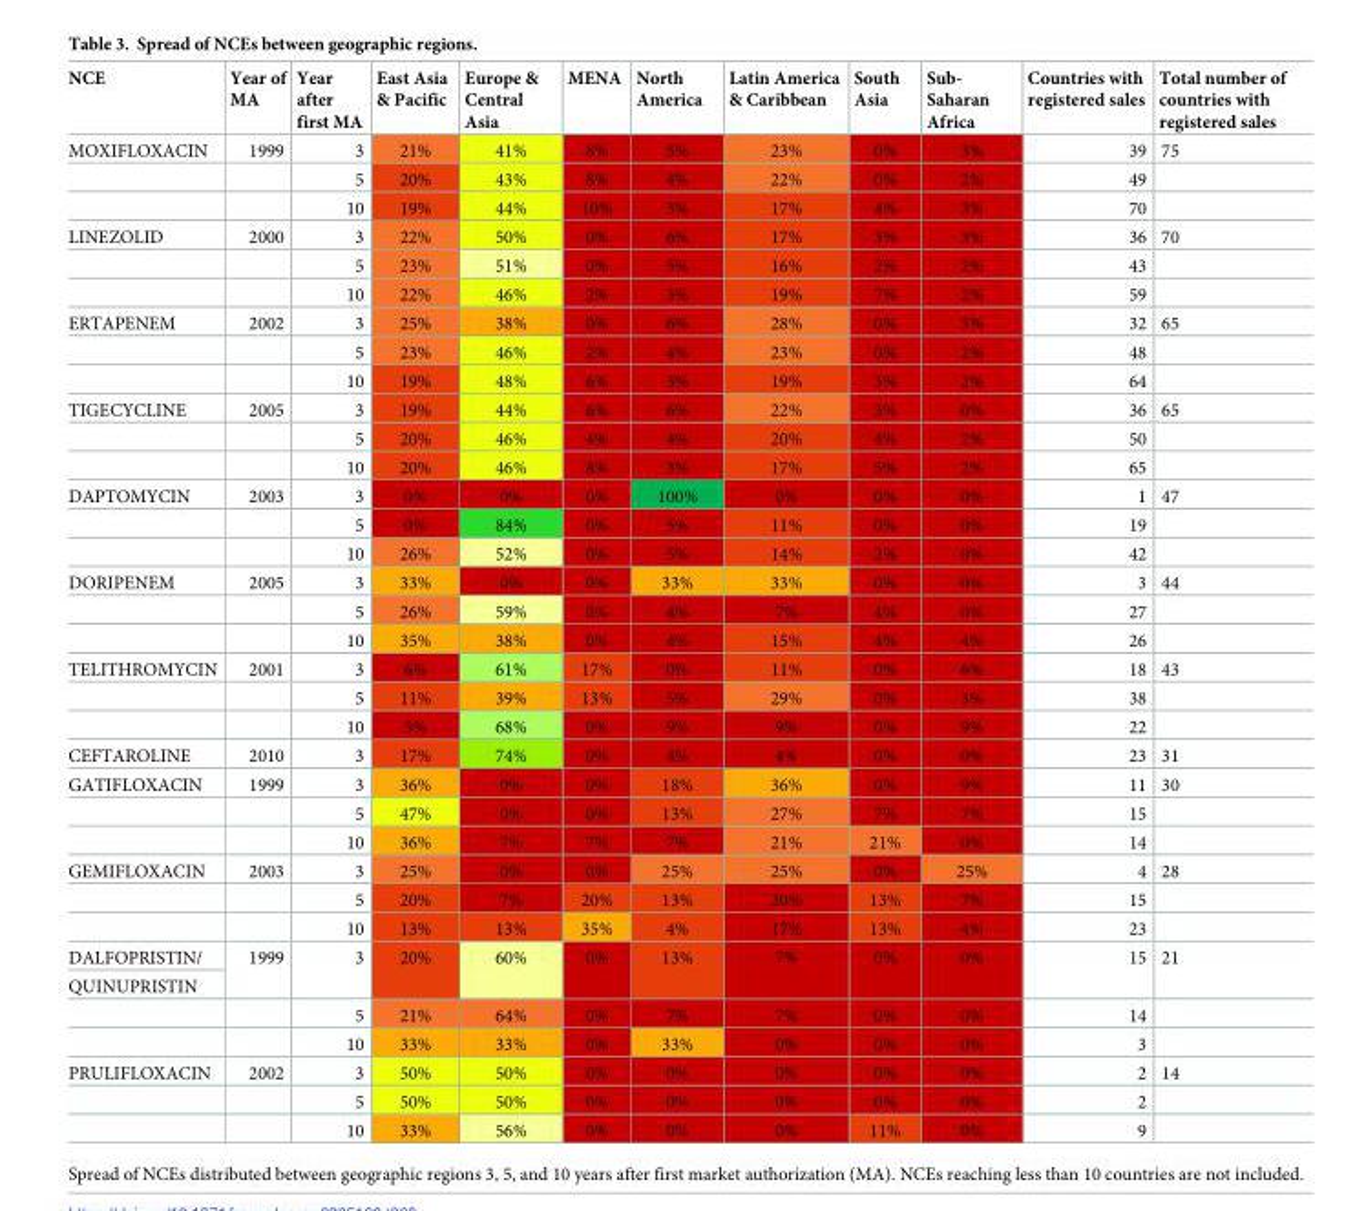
<table><thead><tr><td>NCE</td><td>Year of MA</td><td>Year after first MA</td><td>East Asia &amp; Pacific</td><td>Europe &amp; Central Asia</td><td>MENA</td><td>North America</td><td>Latin America &amp; Caribbean</td><td>South Asia</td><td>Sub- Saharan Africa</td><td>Countries with registered sales</td><td>Total number of countries with registered sales</td></tr></thead><tbody><tr><td rowspan="3">MOXIFLOXACIN</td><td>1999</td><td>3</td><td>21%</td><td>41%</td><td>8%</td><td>5%</td><td>23%</td><td>0%</td><td>3%</td><td>39</td><td>75</td></tr><tr><td></td><td>5</td><td>20%</td><td>43%</td><td>8%</td><td>4%</td><td>22%</td><td>0%</td><td>2%</td><td>49</td><td></td></tr><tr><td></td><td>10</td><td>19%</td><td>44%</td><td>10%</td><td>3%</td><td>17%</td><td>4%</td><td>3%</td><td>70</td><td></td></tr><tr><td rowspan="3">LINEZOLID</td><td>2000</td><td>3</td><td>22%</td><td>50%</td><td>0%</td><td>6%</td><td>17%</td><td>3%</td><td>3%</td><td>36</td><td>70</td></tr><tr><td></td><td>5</td><td>23%</td><td>51%</td><td>0%</td><td>5%</td><td>16%</td><td>2%</td><td>2%</td><td>43</td><td></td></tr><tr><td></td><td>10</td><td>22%</td><td>46%</td><td>2%</td><td>3%</td><td>19%</td><td>7%</td><td>2%</td><td>59</td><td></td></tr><tr><td rowspan="3">ERTAPENEM</td><td>2002</td><td>3</td><td>25%</td><td>38%</td><td>0%</td><td>6%</td><td>28%</td><td>0%</td><td>3%</td><td>32</td><td>65</td></tr><tr><td></td><td>5</td><td>23%</td><td>46%</td><td>2%</td><td>4%</td><td>23%</td><td>0%</td><td>2%</td><td>48</td><td></td></tr><tr><td></td><td>10</td><td>19%</td><td>48%</td><td>6%</td><td>3%</td><td>19%</td><td>3%</td><td>2%</td><td>64</td><td></td></tr><tr><td rowspan="3">TIGECYCLINE</td><td>2005</td><td>3</td><td>19%</td><td>44%</td><td>6%</td><td>6%</td><td>22%</td><td>3%</td><td>0%</td><td>36</td><td>65</td></tr><tr><td></td><td>5</td><td>20%</td><td>46%</td><td>4%</td><td>4%</td><td>20%</td><td>4%</td><td>2%</td><td>50</td><td></td></tr><tr><td></td><td>10</td><td>20%</td><td>46%</td><td>8%</td><td>3%</td><td>17%</td><td>5%</td><td>2%</td><td>65</td><td></td></tr><tr><td rowspan="3">DAPTOMYCIN</td><td>2003</td><td>3</td><td>0%</td><td>0%</td><td>0%</td><td>100%</td><td>0%</td><td>0%</td><td>0%</td><td>1</td><td>47</td></tr><tr><td></td><td>5</td><td>0%</td><td>84%</td><td>0%</td><td>5%</td><td>11%</td><td>0%</td><td>0%</td><td>19</td><td></td></tr><tr><td></td><td>10</td><td>26%</td><td>52%</td><td>0%</td><td>5%</td><td>14%</td><td>2%</td><td>0%</td><td>42</td><td></td></tr><tr><td rowspan="3">DORIPENEM</td><td>2005</td><td>3</td><td>33%</td><td>0%</td><td>0%</td><td>33%</td><td>33%</td><td>0%</td><td>0%</td><td>3</td><td>44</td></tr><tr><td></td><td>5</td><td>26%</td><td>59%</td><td>0%</td><td>4%</td><td>7%</td><td>4%</td><td>0%</td><td>27</td><td></td></tr><tr><td></td><td>10</td><td>35%</td><td>38%</td><td>0%</td><td>4%</td><td>15%</td><td>4%</td><td>4%</td><td>26</td><td></td></tr><tr><td rowspan="3">TELITHROMYCIN</td><td>2001</td><td>3</td><td>6%</td><td>61%</td><td>17%</td><td>0%</td><td>11%</td><td>0%</td><td>6%</td><td>18</td><td>43</td></tr><tr><td></td><td>5</td><td>11%</td><td>39%</td><td>13%</td><td>5%</td><td>29%</td><td>0%</td><td>3%</td><td>38</td><td></td></tr><tr><td></td><td>10</td><td>5%</td><td>68%</td><td>0%</td><td>9%</td><td>9%</td><td>0%</td><td>9%</td><td>22</td><td></td></tr><tr><td>CEFTAROLINE</td><td>2010</td><td>3</td><td>17%</td><td>74%</td><td>0%</td><td>4%</td><td>4%</td><td>0%</td><td>0%</td><td>23</td><td>31</td></tr><tr><td rowspan="3">GATIFLOXACIN</td><td>1999</td><td>3</td><td>36%</td><td>0%</td><td>0%</td><td>18%</td><td>36%</td><td>0%</td><td>9%</td><td>11</td><td>30</td></tr><tr><td></td><td>5</td><td>47%</td><td>0%</td><td>0%</td><td>13%</td><td>27%</td><td>7%</td><td>7%</td><td>15</td><td></td></tr><tr><td></td><td>10</td><td>36%</td><td>7%</td><td>7%</td><td>7%</td><td>21%</td><td>21%</td><td>0%</td><td>14</td><td></td></tr><tr><td rowspan="3">GEMIFLOXACIN</td><td>2003</td><td>3</td><td>25%</td><td>0%</td><td>0%</td><td>25%</td><td>25%</td><td>0%</td><td>25%</td><td>4</td><td>28</td></tr><tr><td></td><td>5</td><td>20%</td><td>7%</td><td>20%</td><td>13%</td><td>20%</td><td>13%</td><td>7%</td><td>15</td><td></td></tr><tr><td></td><td>10</td><td>13%</td><td>13%</td><td>35%</td><td>4%</td><td>17%</td><td>13%</td><td>4%</td><td>23</td><td></td></tr><tr><td>DALFOPRISTIN/</td><td rowspan="2">1999</td><td rowspan="2">3</td><td rowspan="2">20%</td><td rowspan="2">60%</td><td rowspan="2">0%</td><td rowspan="2">13%</td><td rowspan="2">7%</td><td rowspan="2">0%</td><td rowspan="2">0%</td><td rowspan="2">15</td><td rowspan="2">21</td></tr><tr><td rowspan="3">QUINUPRISTIN</td></tr><tr><td></td><td>5</td><td>21%</td><td>64%</td><td>0%</td><td>7%</td><td>7%</td><td>0%</td><td>0%</td><td>14</td><td></td></tr><tr><td></td><td>10</td><td>33%</td><td>33%</td><td>0%</td><td>33%</td><td>0%</td><td>0%</td><td>0%</td><td>3</td><td></td></tr><tr><td rowspan="3">PRULIFLOXACIN</td><td>2002</td><td>3</td><td>50%</td><td>50%</td><td>0%</td><td>0%</td><td>0%</td><td>0%</td><td>0%</td><td>2</td><td>14</td></tr><tr><td></td><td>5</td><td>50%</td><td>50%</td><td>0%</td><td>0%</td><td>0%</td><td>0%</td><td>0%</td><td>2</td><td></td></tr><tr><td></td><td>10</td><td>33%</td><td>56%</td><td>0%</td><td>0%</td><td>0%</td><td>11%</td><td>0%</td><td>9</td><td></td></tr></tbody></table>